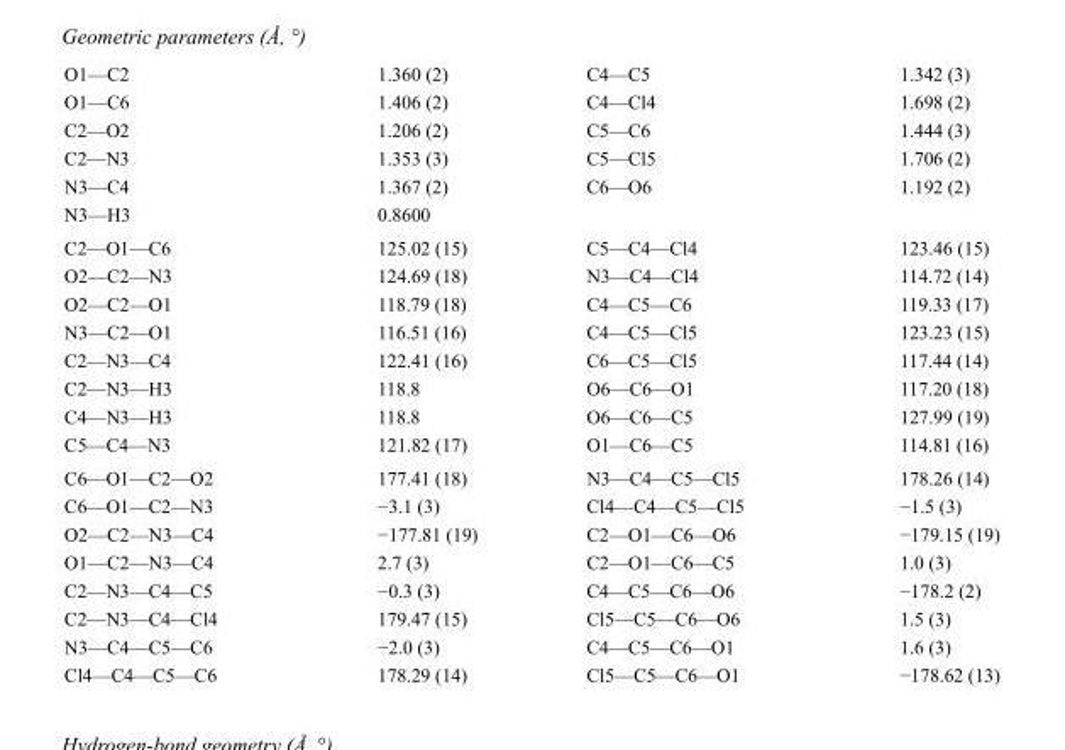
<table><tbody><tr><td>O1—C2</td><td>1.360 (2)</td><td>C4—C5</td><td>1.342 (3)</td></tr><tr><td>O1—C6</td><td>1.406 (2)</td><td>C4—Cl4</td><td>1.698 (2)</td></tr><tr><td>C2—O2</td><td>1.206 (2)</td><td>C5—C6</td><td>1.444 (3)</td></tr><tr><td>C2—N3</td><td>1.353 (3)</td><td>C5—Cl5</td><td>1.706 (2)</td></tr><tr><td>N3—C4</td><td>1.367 (2)</td><td>C6—O6</td><td>1.192 (2)</td></tr><tr><td>N3—H3</td><td>0.8600</td><td></td><td></td></tr><tr><td>C2—O1—C6</td><td>125.02 (15)</td><td>C5—C4—Cl4</td><td>123.46 (15)</td></tr><tr><td>O2—C2—N3</td><td>124.69 (18)</td><td>N3—C4—Cl4</td><td>114.72 (14)</td></tr><tr><td>O2—C2—O1</td><td>118.79 (18)</td><td>C4—C5—C6</td><td>119.33 (17)</td></tr><tr><td>N3—C2—O1</td><td>116.51 (16)</td><td>C4—C5—Cl5</td><td>123.23 (15)</td></tr><tr><td>C2—N3—C4</td><td>122.41 (16)</td><td>C6—C5—Cl5</td><td>117.44 (14)</td></tr><tr><td>C2—N3—H3</td><td>118.8</td><td>O6—C6—O1</td><td>117.20 (18)</td></tr><tr><td>C4—N3—H3</td><td>118.8</td><td>O6—C6—C5</td><td>127.99 (19)</td></tr><tr><td>C5—C4—N3</td><td>121.82 (17)</td><td>O1—C6—C5</td><td>114.81 (16)</td></tr><tr><td>C6—O1—C2—O2</td><td>177.41 (18)</td><td>N3—C4—C5—Cl5</td><td>178.26 (14)</td></tr><tr><td>C6—O1—C2—N3</td><td>−3.1 (3)</td><td>Cl4—C4—C5—Cl5</td><td>−1.5 (3)</td></tr><tr><td>O2—C2—N3—C4</td><td>−177.81 (19)</td><td>C2—O1—C6—O6</td><td>−179.15 (19)</td></tr><tr><td>O1—C2—N3—C4</td><td>2.7 (3)</td><td>C2—O1—C6—C5</td><td>1.0 (3)</td></tr><tr><td>C2—N3—C4—C5</td><td>−0.3 (3)</td><td>C4—C5—C6—O6</td><td>−178.2 (2)</td></tr><tr><td>C2—N3—C4—Cl4</td><td>179.47 (15)</td><td>Cl5—C5—C6—O6</td><td>1.5 (3)</td></tr><tr><td>N3—C4—C5—C6</td><td>−2.0 (3)</td><td>C4—C5—C6—O1</td><td>1.6 (3)</td></tr><tr><td>Cl4—C4—C5—C6</td><td>178.29 (14)</td><td>Cl5—C5—C6—O1</td><td>−178.62 (13)</td></tr></tbody></table>